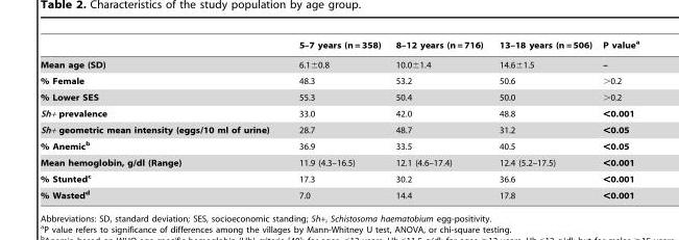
<table><thead><tr><td></td><td>5–7 years (n = 358)</td><td>8–12 years (n = 716)</td><td>13–18 years (n = 506)</td><td>P value<sup>a</sup></td></tr></thead><tbody><tr><td>Mean age (SD)</td><td>6.1±0.8</td><td>10.0±1.4</td><td>14.6±1.5</td><td>–</td></tr><tr><td>% Female</td><td>48.3</td><td>53.2</td><td>50.6</td><td>&gt;0.2</td></tr><tr><td>% Lower SES</td><td>55.3</td><td>50.4</td><td>50.0</td><td>&gt;0.2</td></tr><tr><td>Sh+ prevalence</td><td>33.0</td><td>42.0</td><td>48.8</td><td>&lt;0.001</td></tr><tr><td>Sh+ geometric mean intensity (eggs/10 ml of urine)</td><td>28.7</td><td>48.7</td><td>31.2</td><td>&lt;0.05</td></tr><tr><td>% Anemicb</td><td>36.9</td><td>33.5</td><td>40.5</td><td>&lt;0.05</td></tr><tr><td>Mean hemoglobin, g/dl (Range)</td><td>11.9 (4.3–16.5)</td><td>12.1 (4.6–17.4)</td><td>12.4 (5.2–17.5)</td><td>&lt;0.001</td></tr><tr><td>% Stuntedc</td><td>17.3</td><td>30.2</td><td>36.6</td><td>&lt;0.001</td></tr><tr><td>% Wastedd</td><td>7.0</td><td>14.4</td><td>17.8</td><td>&lt;0.001</td></tr></tbody></table>